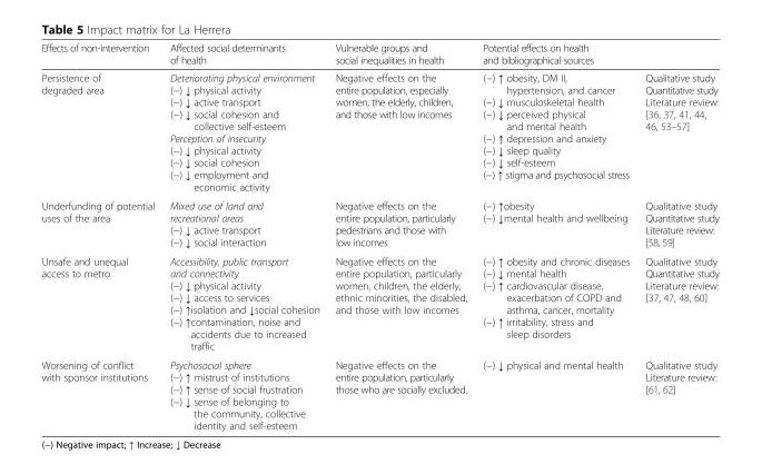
<table><thead><tr><td rowspan="2">Effects of non-intervention Persistence of degraded area</td><td rowspan="2">Affected social determinants of health Deteriorating physical environment (−) ↓ physical activity (−) ↓ active transport (−) ↓ social cohesion and collective self-esteem Perception of insecurity (−) ↓ physical activity (−) ↓ social cohesion (−) ↓ employment and economic activity</td><td rowspan="2">Vulnerable groups and social inequalities in health Negative effects on the entire population, especially women, the elderly, children, and those with low incomes</td><td colspan="2">Potential effects on health and bibliographical sources</td></tr><tr><td>(−) ↑ obesity, DM II, hypertension, and cancer (−) ↓ musculoskeletal health (−) ↓ perceived physical and mental health (−) ↑ depression and anxiety (−) ↓ sleep quality (−) ↓ self-esteem (−) ↑ stigma and psychosocial stress</td><td>Qualitative study Quantitative study Literature review: [36, 37, 41, 44, 46, 53–57]</td></tr></thead><tbody><tr><td>Underfunding of potential uses of the area</td><td>Mixed use of land and recreational areas (−) ↓ active transport (−) ↓ social interaction</td><td>Negative effects on the entire population, particularly pedestrians and those with low incomes</td><td>(−) ↑obesity (−) ↓mental health and wellbeing</td><td>Qualitative study Quantitative study Literature review: [58, 59]</td></tr><tr><td>Unsafe and unequal access to metro</td><td>Accessibility, public transport and connectivity (−) ↓ physical activity (−) ↓ access to services (−) ↑isolation and ↓social cohesion (−) ↑contamination, noise and accidents due to increased traffic</td><td>Negative effects on the entire population, particularly women, children, the elderly, ethnic minorities, the disabled, and those with low incomes</td><td>(−) ↑ obesity and chronic diseases (−) ↓ mental health (−) ↑ cardiovascular disease, exacerbation of COPD and asthma, cancer, mortality (−) ↑ irritability, stress and sleep disorders</td><td>Qualitative study Quantitative study Literature review: [37, 47, 48, 60]</td></tr><tr><td>Worsening of conflict with sponsor institutions</td><td>Psychosocial sphere (−) ↑ mistrust of institutions (−) ↑ sense of social frustration (−) ↓ sense of belonging to the community, collective identity and self-esteem</td><td>Negative effects on the entire population, particularly those who are socially excluded.</td><td>(−) ↓ physical and mental health</td><td>Qualitative study Literature review: [61, 62]</td></tr></tbody></table>